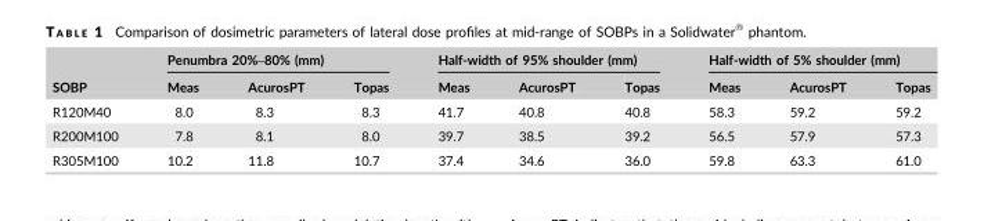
<table><thead><tr><td rowspan="2">SOBP</td><td colspan="3">Penumbra 20%–80% (mm)</td><td colspan="3">Half-width of 95% shoulder (mm)</td><td colspan="3">Half-width of 5% shoulder (mm)</td></tr><tr><td>Meas</td><td>AcurosPT</td><td>Topas</td><td>Meas</td><td>AcurosPT</td><td>Topas</td><td>Meas</td><td>AcurosPT</td><td>Topas</td></tr></thead><tbody><tr><td>R120M40</td><td>8.0</td><td>8.3</td><td>8.3</td><td>41.7</td><td>40.8</td><td>40.8</td><td>58.3</td><td>59.2</td><td>59.2</td></tr><tr><td>R200M100</td><td>7.8</td><td>8.1</td><td>8.0</td><td>39.7</td><td>38.5</td><td>39.2</td><td>56.5</td><td>57.9</td><td>57.3</td></tr><tr><td>R305M100</td><td>10.2</td><td>11.8</td><td>10.7</td><td>37.4</td><td>34.6</td><td>36.0</td><td>59.8</td><td>63.3</td><td>61.0</td></tr></tbody></table>